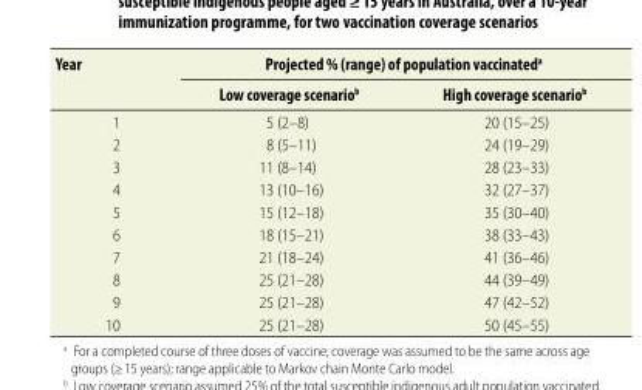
<table><thead><tr><td rowspan="2">Year</td><td colspan="2">Projected % (range) of population vaccinated<sup>a</sup></td></tr><tr><td>Low coverage scenario<sup>b</sup></td><td>High coverage scenario<sup>b</sup></td></tr></thead><tbody><tr><td>1</td><td>5 (2–8)</td><td>20 (15–25)</td></tr><tr><td>2</td><td>8 (5–11)</td><td>24 (19–29)</td></tr><tr><td>3</td><td>11 (8–14)</td><td>28 (23–33)</td></tr><tr><td>4</td><td>13 (10–16)</td><td>32 (27–37)</td></tr><tr><td>5</td><td>15 (12–18)</td><td>35 (30–40)</td></tr><tr><td>6</td><td>18 (15–21)</td><td>38 (33–43)</td></tr><tr><td>7</td><td>21 (18–24)</td><td>41 (36–46)</td></tr><tr><td>8</td><td>25 (21–28)</td><td>44 (39–49)</td></tr><tr><td>9</td><td>25 (21–28)</td><td>47 (42–52)</td></tr><tr><td>10</td><td>25 (21–28)</td><td>50 (45–55)</td></tr></tbody></table>